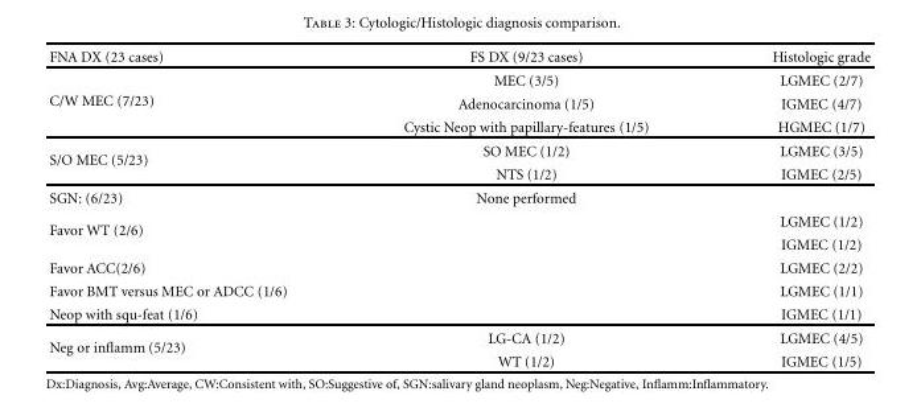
<table><thead><tr><td>FNA DX (23 cases)</td><td>FS DX (9/23 cases)</td><td>Histologic grade</td></tr></thead><tbody><tr><td rowspan="3">C/W MEC (7/23)</td><td>MEC (3/5)</td><td>LGMEC (2/7)</td></tr><tr><td>Adenocarcinoma (1/5)</td><td>IGMEC (4/7)</td></tr><tr><td>Cystic Neop with papillary-features (1/5)</td><td>HGMEC (1/7)</td></tr><tr><td rowspan="2">S/O MEC (5/23)</td><td>SO MEC (1/2)</td><td>LGMEC (3/5)</td></tr><tr><td>NTS (1/2)</td><td>IGMEC (2/5)</td></tr><tr><td>SGN: (6/23)</td><td>None performed</td><td></td></tr><tr><td rowspan="2">Favor WT (2/6)</td><td></td><td>LGMEC (1/2)</td></tr><tr><td></td><td>IGMEC (1/2)</td></tr><tr><td>Favor ACC(2/6)</td><td></td><td>LGMEC (2/2)</td></tr><tr><td>Favor BMT versus MEC or ADCC (1/6)</td><td></td><td>LGMEC (1/1)</td></tr><tr><td>Neop with squ-feat (1/6)</td><td></td><td>IGMEC (1/1)</td></tr><tr><td rowspan="2">Neg or inflamm (5/23)</td><td>LG-CA (1/2)</td><td>LGMEC (4/5)</td></tr><tr><td>WT (1/2)</td><td>IGMEC (1/5)</td></tr></tbody></table>